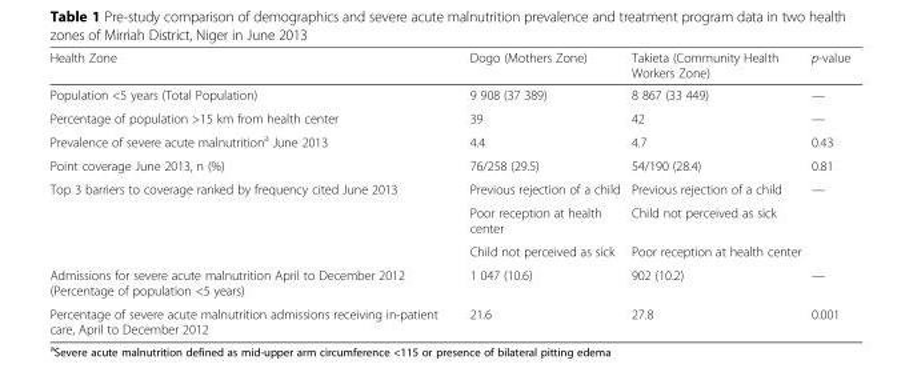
<table><thead><tr><td>Health Zone</td><td>Dogo (Mothers Zone)</td><td>Takieta (Community Health Workers Zone)</td><td>p-value</td></tr></thead><tbody><tr><td>Population &lt;5 years (Total Population)</td><td>9 908 (37 389)</td><td>8 867 (33 449)</td><td>—</td></tr><tr><td>Percentage of population &gt;15 km from health center</td><td>39</td><td>42</td><td>—</td></tr><tr><td>Prevalence of severe acute malnutrition<sup>a</sup> June 2013</td><td>4.4</td><td>4.7</td><td>0.43</td></tr><tr><td>Point coverage June 2013, n (%)</td><td>76/258 (29.5)</td><td>54/190 (28.4)</td><td>0.81</td></tr><tr><td rowspan="3">Top 3 barriers to coverage ranked by frequency cited June 2013</td><td>Previous rejection of a child</td><td>Previous rejection of a child</td><td rowspan="3">—</td></tr><tr><td>Poor reception at health center</td><td>Child not perceived as sick</td></tr><tr><td>Child not perceived as sick</td><td>Poor reception at health center</td></tr><tr><td>Admissions for severe acute malnutrition April to December 2012 (Percentage of population &lt;5 years)</td><td>1 047 (10.6)</td><td>902 (10.2)</td><td>—</td></tr><tr><td>Percentage of severe acute malnutrition admissions receiving in-patient care, April to December 2012</td><td>21.6</td><td>27.8</td><td>0.001</td></tr></tbody></table>